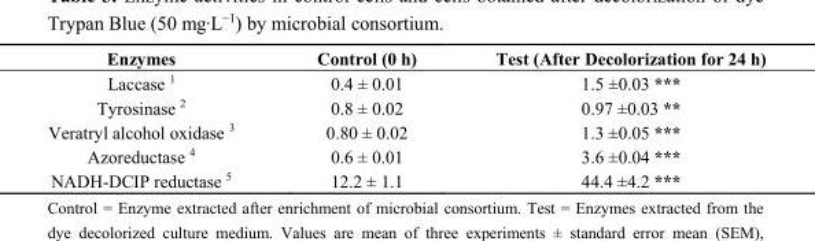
<table><thead><tr><td>Enzymes</td><td>Control (0 h)</td><td>Test (After Decolorization for 24 h)</td></tr></thead><tbody><tr><td>Laccase <sup>1</sup></td><td>0.4 ± 0.01</td><td>1.5 ±0.03 ***</td></tr><tr><td>Tyrosinase <sup>2</sup></td><td>0.8 ± 0.02</td><td>0.97 ±0.03 **</td></tr><tr><td>Veratryl alcohol oxidase <sup>3</sup></td><td>0.80 ± 0.02</td><td>1.3 ±0.05 ***</td></tr><tr><td>Azoreductase <sup>4</sup></td><td>0.6 ± 0.01</td><td>3.6 ±0.04 ***</td></tr><tr><td>NADH-DCIP reductase <sup>5</sup></td><td>12.2 ± 1.1</td><td>44.4 ±4.2 ***</td></tr></tbody></table>